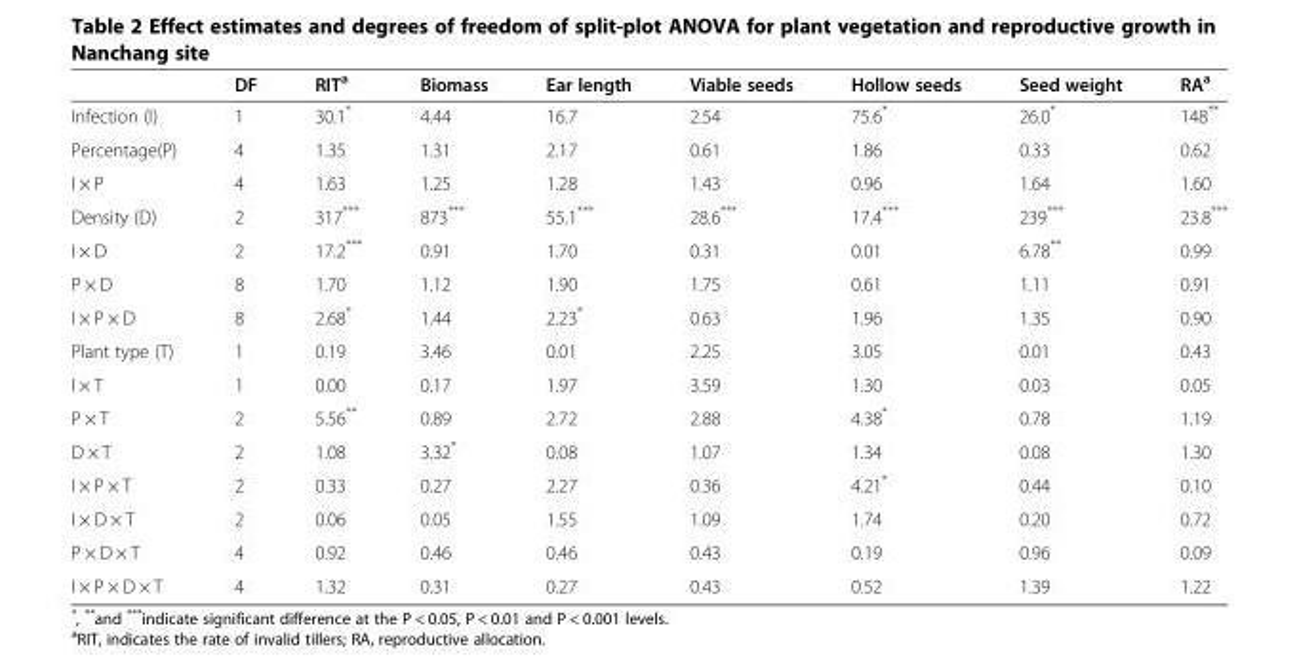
<table><thead><tr><td></td><td>DF</td><td>RIT<sup>a</sup></td><td>Biomass</td><td>Ear length</td><td>Viable seeds</td><td>Hollow seeds</td><td>Seed weight</td><td>RA<sup>a</sup></td></tr></thead><tbody><tr><td>Infection (I)</td><td>1</td><td>30.1*</td><td>4.44</td><td>16.7</td><td>2.54</td><td>75.6*</td><td>26.0*</td><td>148**</td></tr><tr><td>Percentage(P)</td><td>4</td><td>1.35</td><td>1.31</td><td>2.17</td><td>0.61</td><td>1.86</td><td>0.33</td><td>0.62</td></tr><tr><td>I × P</td><td>4</td><td>1.63</td><td>1.25</td><td>1.28</td><td>1.43</td><td>0.96</td><td>1.64</td><td>1.60</td></tr><tr><td>Density (D)</td><td>2</td><td>317***</td><td>873***</td><td>55.1***</td><td>28.6***</td><td>17.4***</td><td>239***</td><td>23.8***</td></tr><tr><td>I × D</td><td>2</td><td>17.2***</td><td>0.91</td><td>1.70</td><td>0.31</td><td>0.01</td><td>6.78**</td><td>0.99</td></tr><tr><td>P × D</td><td>8</td><td>1.70</td><td>1.12</td><td>1.90</td><td>1.75</td><td>0.61</td><td>1.11</td><td>0.91</td></tr><tr><td>I × P × D</td><td>8</td><td>2.68*</td><td>1.44</td><td>2.23*</td><td>0.63</td><td>1.96</td><td>1.35</td><td>0.90</td></tr><tr><td>Plant type (T)</td><td>1</td><td>0.19</td><td>3.46</td><td>0.01</td><td>2.25</td><td>3.05</td><td>0.01</td><td>0.43</td></tr><tr><td>I × T</td><td>1</td><td>0.00</td><td>0.17</td><td>1.97</td><td>3.59</td><td>1.30</td><td>0.03</td><td>0.05</td></tr><tr><td>P × T</td><td>2</td><td>5.56**</td><td>0.89</td><td>2.72</td><td>2.88</td><td>4.38*</td><td>0.78</td><td>1.19</td></tr><tr><td>D × T</td><td>2</td><td>1.08</td><td>3.32*</td><td>0.08</td><td>1.07</td><td>1.34</td><td>0.08</td><td>1.30</td></tr><tr><td>I × P × T</td><td>2</td><td>0.33</td><td>0.27</td><td>2.27</td><td>0.36</td><td>4.21*</td><td>0.44</td><td>0.10</td></tr><tr><td>I × D × T</td><td>2</td><td>0.06</td><td>0.05</td><td>1.55</td><td>1.09</td><td>1.74</td><td>0.20</td><td>0.72</td></tr><tr><td>P × D × T</td><td>4</td><td>0.92</td><td>0.46</td><td>0.46</td><td>0.43</td><td>0.19</td><td>0.96</td><td>0.09</td></tr><tr><td>I × P × D × T</td><td>4</td><td>1.32</td><td>0.31</td><td>0.27</td><td>0.43</td><td>0.52</td><td>1.39</td><td>1.22</td></tr></tbody></table>